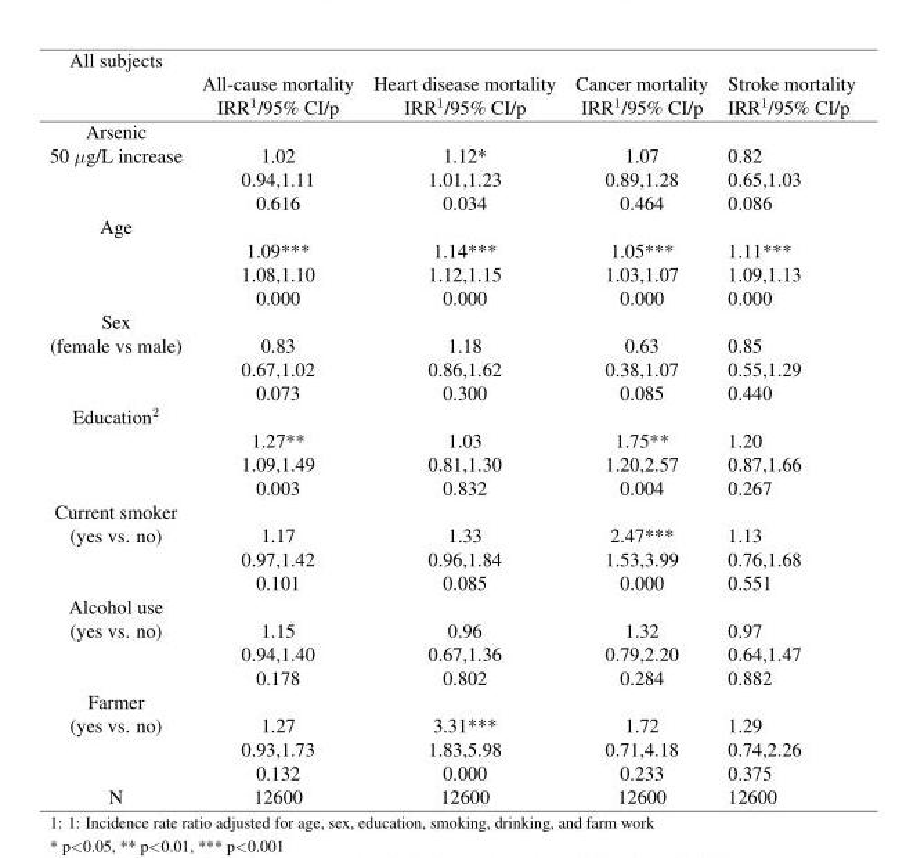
<table><thead><tr><td rowspan="2">All subjects</td><td rowspan="2">All-cause mortality IRR<sup>1</sup>/95% CI/p</td><td rowspan="2">Heart disease mortality IRR<sup>1</sup>/95% CI/p</td><td rowspan="2">Cancer mortality IRR<sup>1</sup>/95% CI/p</td><td rowspan="2">Stroke mortality IRR<sup>1</sup>/95% CI/p</td></tr><tr></tr></thead><tbody><tr><td colspan="5">Arsenic</td></tr><tr><td rowspan="3">50 µg/L increase</td><td>1.02</td><td>1.12*</td><td>1.07</td><td>0.82</td></tr><tr><td>0.94,1.11</td><td>1.01,1.23</td><td>0.89,1.28</td><td>0.65,1.03</td></tr><tr><td>0.616</td><td>0.034</td><td>0.464</td><td>0.086</td></tr><tr><td colspan="5">Age</td></tr><tr><td></td><td>1.09***</td><td>1.14***</td><td>1.05***</td><td>1.11***</td></tr><tr><td></td><td>1.08,1.10</td><td>1.12,1.15</td><td>1.03,1.07</td><td>1.09,1.13</td></tr><tr><td></td><td>0.000</td><td>0.000</td><td>0.000</td><td>0.000</td></tr><tr><td colspan="5">Sex</td></tr><tr><td rowspan="3">(female vs male)</td><td>0.83</td><td>1.18</td><td>0.63</td><td>0.85</td></tr><tr><td>0.67,1.02</td><td>0.86,1.62</td><td>0.38,1.07</td><td>0.55,1.29</td></tr><tr><td>0.073</td><td>0.300</td><td>0.085</td><td>0.440</td></tr><tr><td colspan="5">Education<sup>2</sup></td></tr><tr><td></td><td>1.27**</td><td>1.03</td><td>1.75**</td><td>1.20</td></tr><tr><td></td><td>1.09,1.49</td><td>0.81,1.30</td><td>1.20,2.57</td><td>0.87,1.66</td></tr><tr><td></td><td>0.003</td><td>0.832</td><td>0.004</td><td>0.267</td></tr><tr><td colspan="5">Current smoker</td></tr><tr><td rowspan="3">(yes vs. no)</td><td>1.17</td><td>1.33</td><td>2.47***</td><td>1.13</td></tr><tr><td>0.97,1.42</td><td>0.96,1.84</td><td>1.53,3.99</td><td>0.76,1.68</td></tr><tr><td>0.101</td><td>0.085</td><td>0.000</td><td>0.551</td></tr><tr><td colspan="5">Alcohol use</td></tr><tr><td rowspan="3">(yes vs. no)</td><td>1.15</td><td>0.96</td><td>1.32</td><td>0.97</td></tr><tr><td>0.94,1.40</td><td>0.67,1.36</td><td>0.79,2.20</td><td>0.64,1.47</td></tr><tr><td>0.178</td><td>0.802</td><td>0.284</td><td>0.882</td></tr><tr><td colspan="5">Farmer</td></tr><tr><td rowspan="3">(yes vs. no)</td><td>1.27</td><td>3.31***</td><td>1.72</td><td>1.29</td></tr><tr><td>0.93,1.73</td><td>1.83,5.98</td><td>0.71,4.18</td><td>0.74,2.26</td></tr><tr><td>0.132</td><td>0.000</td><td>0.233</td><td>0.375</td></tr><tr><td>N</td><td>12600</td><td>12600</td><td>12600</td><td>12600</td></tr></tbody></table>